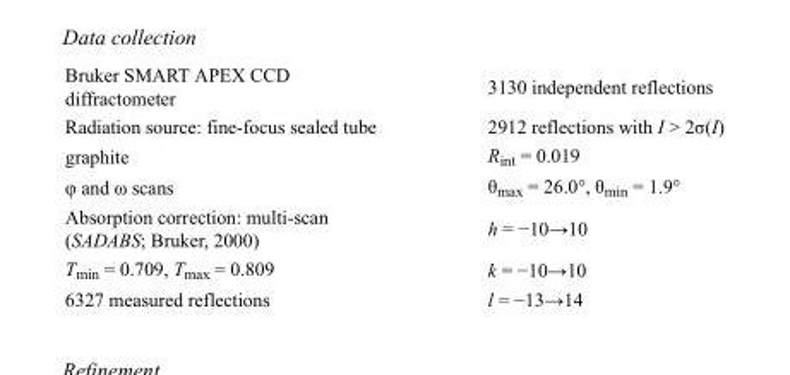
<table><tbody><tr><td>Bruker SMART APEX CCD diffractometer</td><td>3130 independent reflections</td></tr><tr><td>Radiation source: fine-focus sealed tube</td><td>2912 reflections with I &gt; 2σ(I)</td></tr><tr><td>graphite</td><td>R<sub>int</sub> = 0.019</td></tr><tr><td>φ and ω scans</td><td>θ<sub>max</sub> = 26.0°, θ<sub>min</sub> = 1.9°</td></tr><tr><td>Absorption correction: multi-scan (SADABS; Bruker, 2000)</td><td>h = −10→10</td></tr><tr><td>T<sub>min</sub> = 0.709, T<sub>max</sub> = 0.809</td><td>k = −10→10</td></tr><tr><td>6327 measured reflections</td><td>l = −13→14</td></tr></tbody></table>